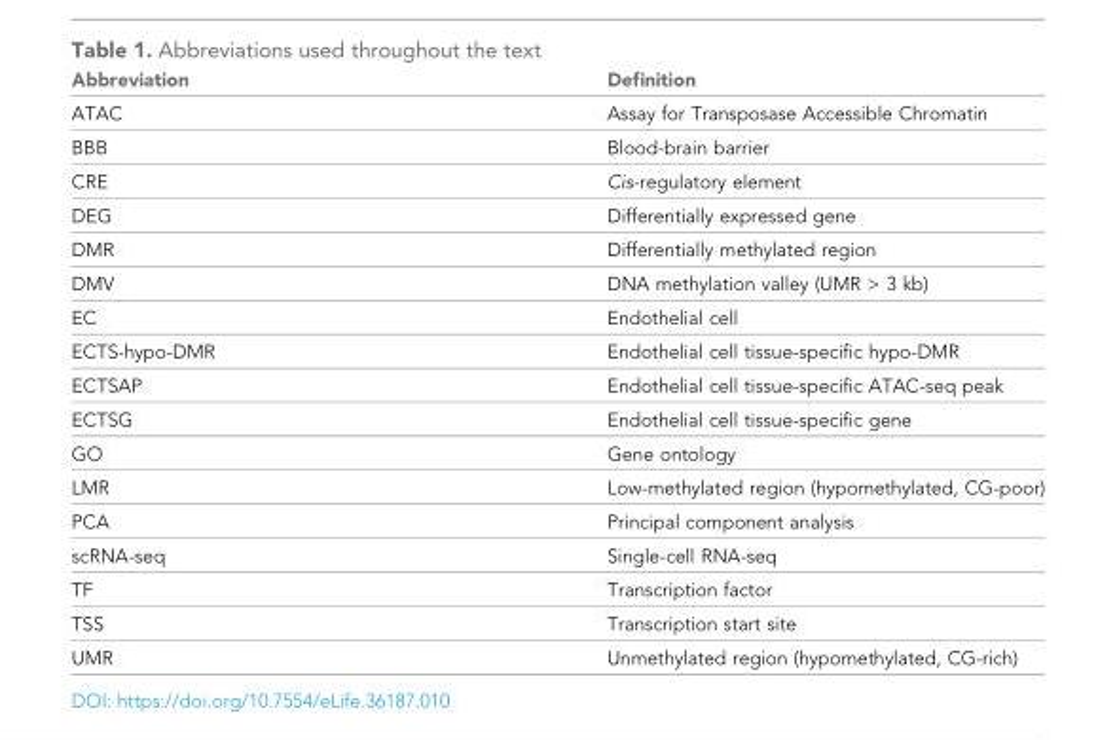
<table><thead><tr><td>Abbreviation</td><td>Definition</td></tr></thead><tbody><tr><td>ATAC</td><td>Assay for Transposase Accessible Chromatin</td></tr><tr><td>BBB</td><td>Blood-brain barrier</td></tr><tr><td>CRE</td><td>Cis-regulatory element</td></tr><tr><td>DEG</td><td>Differentially expressed gene</td></tr><tr><td>DMR</td><td>Differentially methylated region</td></tr><tr><td>DMV</td><td>DNA methylation valley (UMR &gt; 3 kb)</td></tr><tr><td>EC</td><td>Endothelial cell</td></tr><tr><td>ECTS-hypo-DMR</td><td>Endothelial cell tissue-specific hypo-DMR</td></tr><tr><td>ECTSAP</td><td>Endothelial cell tissue-specific ATAC-seq peak</td></tr><tr><td>ECTSG</td><td>Endothelial cell tissue-specific gene</td></tr><tr><td>GO</td><td>Gene ontology</td></tr><tr><td>LMR</td><td>Low-methylated region (hypomethylated, CG-poor)</td></tr><tr><td>PCA</td><td>Principal component analysis</td></tr><tr><td>scRNA-seq</td><td>Single-cell RNA-seq</td></tr><tr><td>TF</td><td>Transcription factor</td></tr><tr><td>TSS</td><td>Transcription start site</td></tr><tr><td>UMR</td><td>Unmethylated region (hypomethylated, CG-rich)</td></tr></tbody></table>